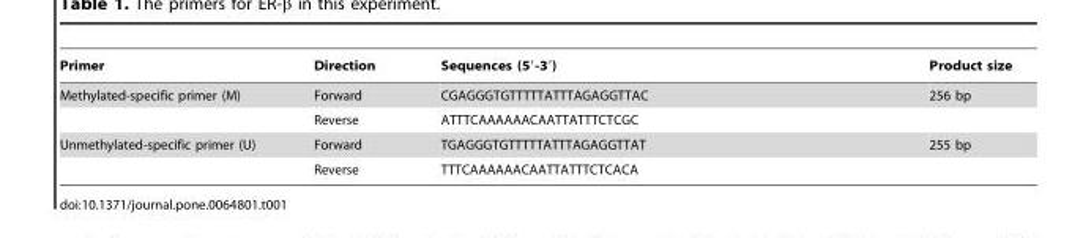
<table><thead><tr><td>Primer</td><td>Direction</td><td>Sequences (5′-3′)</td><td>Product size</td></tr></thead><tbody><tr><td rowspan="2">Methylated-specific primer (M)</td><td>Forward</td><td>CGAGGGTGTTTTTATTTAGAGGTTAC</td><td>256 bp</td></tr><tr><td>Reverse</td><td>ATTTCAAAAAACAATTATTTCTCGC</td><td></td></tr><tr><td rowspan="2">Unmethylated-specific primer (U)</td><td>Forward</td><td>TGAGGGTGTTTTTATTTAGAGGTTAT</td><td>255 bp</td></tr><tr><td>Reverse</td><td>TTTCAAAAAACAATTATTTCTCACA</td><td></td></tr></tbody></table>